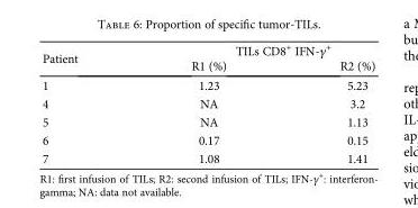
<table><thead><tr><td rowspan="2">Patient</td><td colspan="2">TILs CD8<sup>+</sup> IFN-γ<sup>+</sup></td></tr><tr><td>R1 (%)</td><td>R2 (%)</td></tr></thead><tbody><tr><td>1</td><td>1.23</td><td>5.23</td></tr><tr><td>4</td><td>NA</td><td>3.2</td></tr><tr><td>5</td><td>NA</td><td>1.13</td></tr><tr><td>6</td><td>0.17</td><td>0.15</td></tr><tr><td>7</td><td>1.08</td><td>1.41</td></tr></tbody></table>